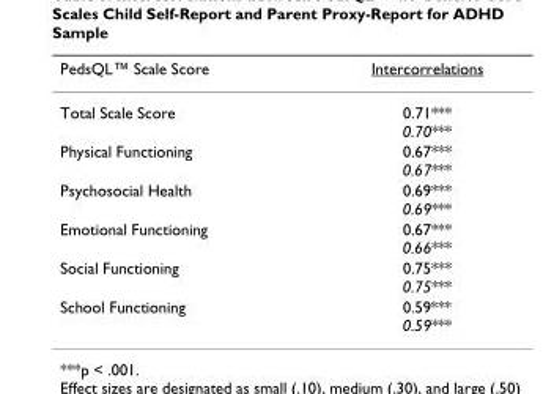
<table><thead><tr><td>PedsQL™ Scale Score</td><td>Intercorrelations</td></tr></thead><tbody><tr><td>Total Scale Score</td><td>0.71*** 0.70***</td></tr><tr><td>Physical Functioning</td><td>0.67*** 0.67***</td></tr><tr><td>Psychosocial Health</td><td>0.69*** 0.69***</td></tr><tr><td>Emotional Functioning</td><td>0.67*** 0.66***</td></tr><tr><td>Social Functioning</td><td>0.75*** 0.75***</td></tr><tr><td>School Functioning</td><td>0.59*** 0.59***</td></tr></tbody></table>